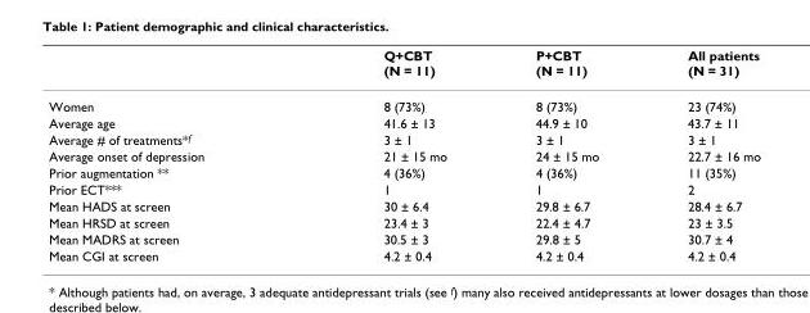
<table><thead><tr><td></td><td>Q+CBT (N = 11)</td><td>P+CBT (N = 11)</td><td>All patients (N = 31)</td></tr></thead><tbody><tr><td>Women</td><td>8 (73%)</td><td>8 (73%)</td><td>23 (74%)</td></tr><tr><td>Average age</td><td>41.6 ± 13</td><td>44.9 ± 10</td><td>43.7 ± 11</td></tr><tr><td>Average # of treatments*<sup>f</sup></td><td>3 ± 1</td><td>3 ± 1</td><td>3 ± 1</td></tr><tr><td>Average onset of depression</td><td>21 ± 15 mo</td><td>24 ± 15 mo</td><td>22.7 ± 16 mo</td></tr><tr><td>Prior augmentation **</td><td>4 (36%)</td><td>4 (36%)</td><td>11 (35%)</td></tr><tr><td>Prior ECT***</td><td>1</td><td>1</td><td>2</td></tr><tr><td>Mean HADS at screen</td><td>30 ± 6.4</td><td>29.8 ± 6.7</td><td>28.4 ± 6.7</td></tr><tr><td>Mean HRSD at screen</td><td>23.4 ± 3</td><td>22.4 ± 4.7</td><td>23 ± 3.5</td></tr><tr><td>Mean MADRS at screen</td><td>30.5 ± 3</td><td>29.8 ± 5</td><td>30.7 ± 4</td></tr><tr><td>Mean CGI at screen</td><td>4.2 ± 0.4</td><td>4.2 ± 0.4</td><td>4.2 ± 0.4</td></tr></tbody></table>